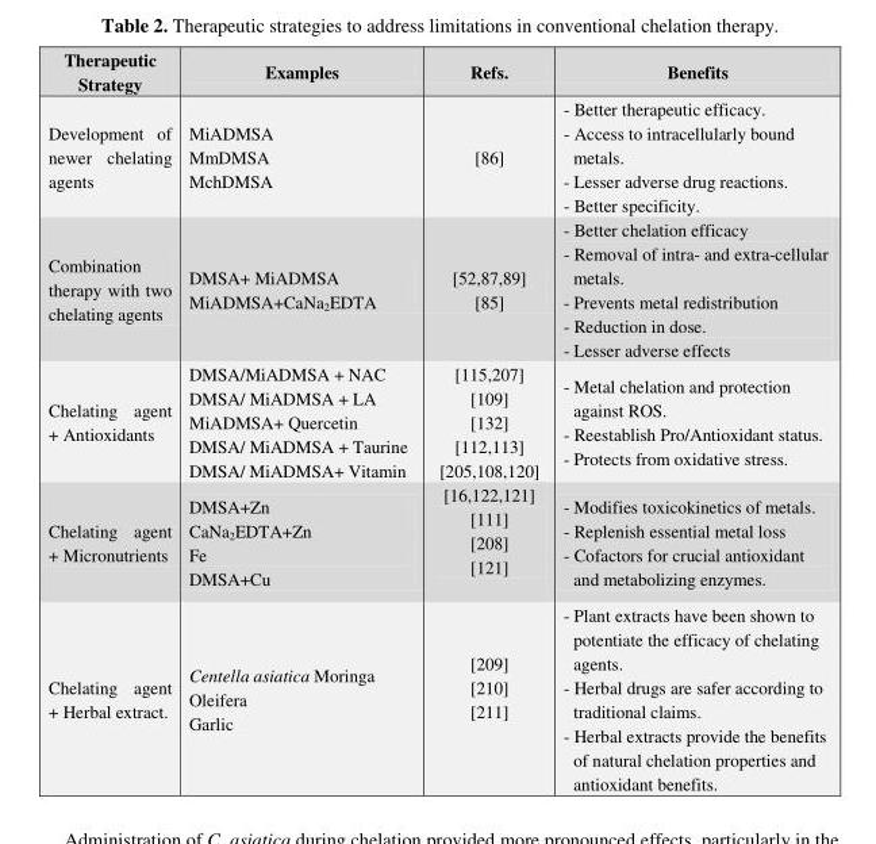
<table><thead><tr><td>Therapeutic Strategy</td><td>Examples</td><td>Refs.</td><td>Benefits</td></tr></thead><tbody><tr><td>Development of newer chelating agents</td><td>MiADMSA MmDMSA MchDMSA</td><td>[86]</td><td>- Better therapeutic efficacy. - Access to intracellularly bound metals. - Lesser adverse drug reactions. - Better specificity.</td></tr><tr><td>Combination therapy with two chelating agents</td><td>DMSA+ MiADMSA MiADMSA+CaNa<sub>2</sub>EDTA</td><td>[52,87,89] [85]</td><td>- Better chelation efficacy - Removal of intra- and extra-cellular metals. - Prevents metal redistribution - Reduction in dose. - Lesser adverse effects</td></tr><tr><td>Chelating agent + Antioxidants</td><td>DMSA/MiADMSA + NAC DMSA/ MiADMSA + LA MiADMSA+ Quercetin DMSA/ MiADMSA + Taurine DMSA/ MiADMSA+ Vitamin</td><td>[115,207] [109] [132] [112,113] [205,108,120]</td><td>- Metal chelation and protection against ROS. - Reestablish Pro/Antioxidant status. - Protects from oxidative stress.</td></tr><tr><td>Chelating agent + Micronutrients</td><td>DMSA+Zn CaNa<sub>2</sub>EDTA+Zn Fe DMSA+Cu</td><td>[16,122,121] [111] [208] [121]</td><td>- Modifies toxicokinetics of metals. - Replenish essential metal loss - Cofactors for crucial antioxidant and metabolizing enzymes.</td></tr><tr><td>Chelating agent + Herbal extract.</td><td>Centella asiatica Moringa Oleifera Garlic</td><td>[209] [210] [211]</td><td>- Plant extracts have been shown to potentiate the efficacy of chelating agents. - Herbal drugs are safer according to traditional claims. - Herbal extracts provide the benefits of natural chelation properties and antioxidant benefits.</td></tr></tbody></table>